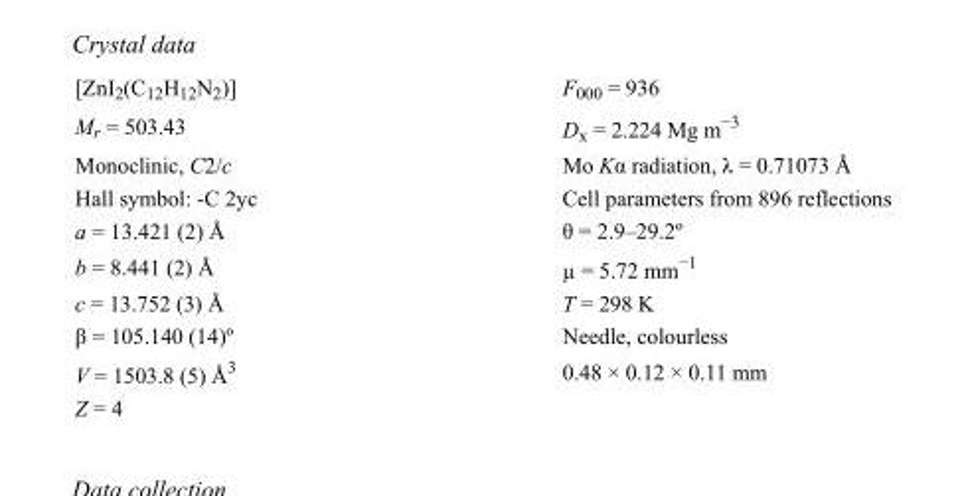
<table><tbody><tr><td>[ZnI<sub>2</sub>(C<sub>12</sub>H<sub>12</sub>N<sub>2</sub>)]</td><td>F000 = 936</td></tr><tr><td>M<sub>r</sub> = 503.43</td><td>D<sub>x</sub> = 2.224 Mg m<sup>−3</sup></td></tr><tr><td>Monoclinic, C2/c</td><td>Mo Kα radiation, λ = 0.71073 Å</td></tr><tr><td>Hall symbol: -C 2yc</td><td>Cell parameters from 896 reflections</td></tr><tr><td>a = 13.421 (2) Å</td><td>θ = 2.9–29.2º</td></tr><tr><td>b = 8.441 (2) Å</td><td>µ = 5.72 mm<sup>−1</sup></td></tr><tr><td>c = 13.752 (3) Å</td><td>T = 298 K</td></tr><tr><td>β = 105.140 (14)º</td><td>Needle, colourless</td></tr><tr><td>V = 1503.8 (5) Å<sup>3</sup></td><td>0.48 × 0.12 × 0.11 mm</td></tr><tr><td>Z = 4</td><td></td></tr></tbody></table>